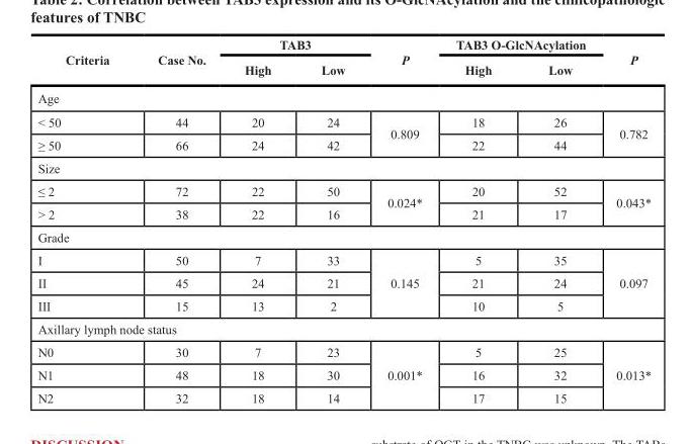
<table><thead><tr><td rowspan="2">Criteria</td><td rowspan="2">Case No.</td><td colspan="2">TAB3</td><td rowspan="2">P</td><td colspan="2">TAB3 O-GlcNAcylation</td><td rowspan="2">P</td></tr><tr><td>High</td><td>Low</td><td>High</td><td>Low</td></tr></thead><tbody><tr><td colspan="8">Age</td></tr><tr><td>&lt; 50</td><td>44</td><td>20</td><td>24</td><td rowspan="2">0.809</td><td>18</td><td>26</td><td rowspan="2">0.782</td></tr><tr><td>≥ 50</td><td>66</td><td>24</td><td>42</td><td>22</td><td>44</td></tr><tr><td colspan="8">Size</td></tr><tr><td>≤ 2</td><td>72</td><td>22</td><td>50</td><td rowspan="2">0.024*</td><td>20</td><td>52</td><td rowspan="2">0.043*</td></tr><tr><td>&gt; 2</td><td>38</td><td>22</td><td>16</td><td>21</td><td>17</td></tr><tr><td colspan="8">Grade</td></tr><tr><td>I</td><td>50</td><td>7</td><td>33</td><td rowspan="3">0.145</td><td>5</td><td>35</td><td rowspan="3">0.097</td></tr><tr><td>II</td><td>45</td><td>24</td><td>21</td><td>21</td><td>24</td></tr><tr><td>III</td><td>15</td><td>13</td><td>2</td><td>10</td><td>5</td></tr><tr><td colspan="8">Axillary lymph node status</td></tr><tr><td>N0</td><td>30</td><td>7</td><td>23</td><td rowspan="3">0.001*</td><td>5</td><td>25</td><td rowspan="3">0.013*</td></tr><tr><td>N1</td><td>48</td><td>18</td><td>30</td><td>16</td><td>32</td></tr><tr><td>N2</td><td>32</td><td>18</td><td>14</td><td>17</td><td>15</td></tr></tbody></table>